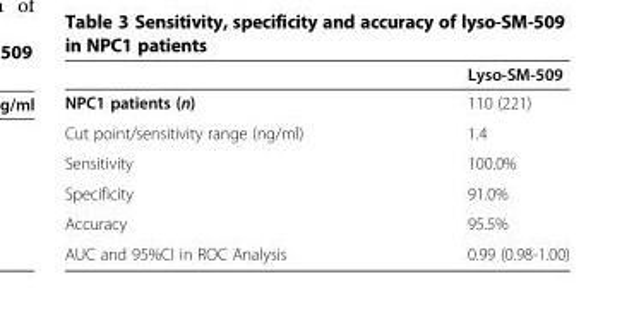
<table><thead><tr><td></td><td>Lyso-SM-509</td></tr></thead><tbody><tr><td>NPC1 patients (n)</td><td>110 (221)</td></tr><tr><td>Cut point/sensitivity range (ng/ml)</td><td>1.4</td></tr><tr><td>Sensitivity</td><td>100.0%</td></tr><tr><td>Specificity</td><td>91.0%</td></tr><tr><td>Accuracy</td><td>95.5%</td></tr><tr><td>AUC and 95%CI in ROC Analysis</td><td>0.99 (0.98-1.00)</td></tr></tbody></table>